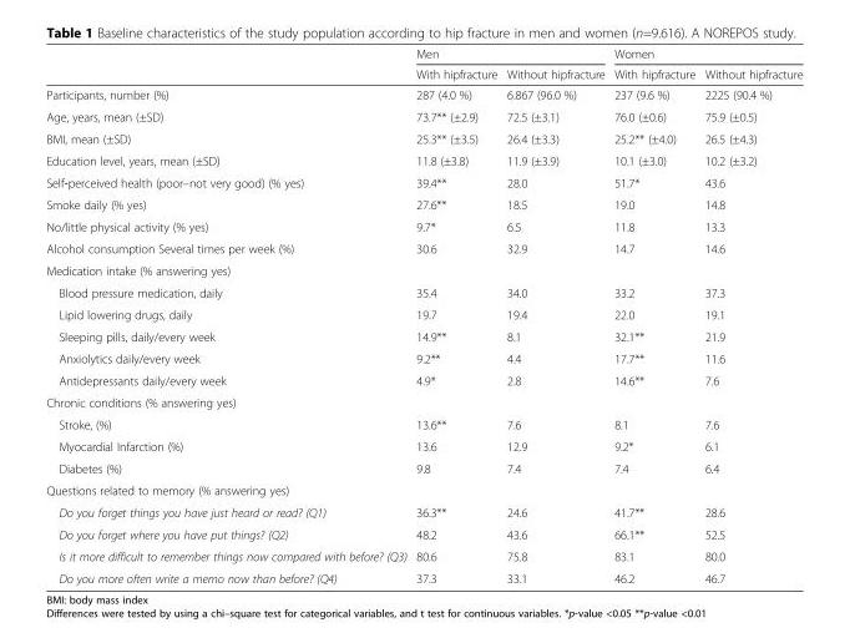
<table><thead><tr><td rowspan="2"></td><td colspan="2">Men</td><td colspan="2">Women</td></tr><tr><td>With hipfracture</td><td>Without hipfracture</td><td>With hipfracture</td><td>Without hipfracture</td></tr></thead><tbody><tr><td>Participants, number (%)</td><td>287 (4.0 %)</td><td>6.867 (96.0 %)</td><td>237 (9.6 %)</td><td>2225 (90.4 %)</td></tr><tr><td>Age, years, mean (±SD)</td><td>73.7** (±2.9)</td><td>72.5 (±3.1)</td><td>76.0 (±0.6)</td><td>75.9 (±0.5)</td></tr><tr><td>BMI, mean (±SD)</td><td>25.3** (±3.5)</td><td>26.4 (±3.3)</td><td>25.2** (±4.0)</td><td>26.5 (±4.3)</td></tr><tr><td>Education level, years, mean (±SD)</td><td>11.8 (±3.8)</td><td>11.9 (±3.9)</td><td>10.1 (±3.0)</td><td>10.2 (±3.2)</td></tr><tr><td>Self‐perceived health (poor–not very good) (% yes)</td><td>39.4**</td><td>28.0</td><td>51.7*</td><td>43.6</td></tr><tr><td>Smoke daily (% yes)</td><td>27.6**</td><td>18.5</td><td>19.0</td><td>14.8</td></tr><tr><td>No/little physical activity (% yes)</td><td>9.7*</td><td>6.5</td><td>11.8</td><td>13.3</td></tr><tr><td>Alcohol consumption Several times per week (%)</td><td>30.6</td><td>32.9</td><td>14.7</td><td>14.6</td></tr><tr><td colspan="5">Medication intake (% answering yes)</td></tr><tr><td>Blood pressure medication, daily</td><td>35.4</td><td>34.0</td><td>33.2</td><td>37.3</td></tr><tr><td>Lipid lowering drugs, daily</td><td>19.7</td><td>19.4</td><td>22.0</td><td>19.1</td></tr><tr><td>Sleeping pills, daily/every week</td><td>14.9**</td><td>8.1</td><td>32.1**</td><td>21.9</td></tr><tr><td>Anxiolytics daily/every week</td><td>9.2**</td><td>4.4</td><td>17.7**</td><td>11.6</td></tr><tr><td>Antidepressants daily/every week</td><td>4.9*</td><td>2.8</td><td>14.6**</td><td>7.6</td></tr><tr><td colspan="5">Chronic conditions (% answering yes)</td></tr><tr><td>Stroke, (%)</td><td>13.6**</td><td>7.6</td><td>8.1</td><td>7.6</td></tr><tr><td>Myocardial Infarction (%)</td><td>13.6</td><td>12.9</td><td>9.2*</td><td>6.1</td></tr><tr><td>Diabetes (%)</td><td>9.8</td><td>7.4</td><td>7.4</td><td>6.4</td></tr><tr><td colspan="5">Questions related to memory (% answering yes)</td></tr><tr><td>Do you forget things you have just heard or read? (Q1)</td><td>36.3**</td><td>24.6</td><td>41.7**</td><td>28.6</td></tr><tr><td>Do you forget where you have put things? (Q2)</td><td>48.2</td><td>43.6</td><td>66.1**</td><td>52.5</td></tr><tr><td>Is it more difficult to remember things now compared with before? (Q3)</td><td>80.6</td><td>75.8</td><td>83.1</td><td>80.0</td></tr><tr><td>Do you more often write a memo now than before? (Q4)</td><td>37.3</td><td>33.1</td><td>46.2</td><td>46.7</td></tr></tbody></table>